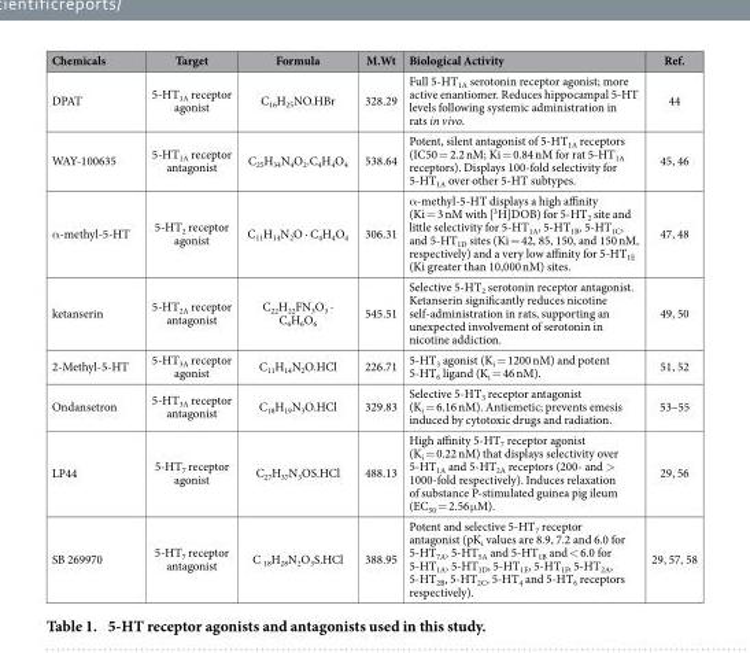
<table><thead><tr><td>Chemicals</td><td>Target</td><td>Formula</td><td>M.Wt</td><td>Biological Activity</td><td>Ref.</td></tr></thead><tbody><tr><td>DPAT</td><td>5-HT<sub>1A</sub> receptor agonist</td><td>C<sub>16</sub>H<sub>25</sub>NO.HBr</td><td>328.29</td><td>Full 5-HT<sub>1A</sub> serotonin receptor agonist; more active enantiomer. Reduces hippocampal 5-HT levels following systemic administration in rats in vivo.</td><td>44</td></tr><tr><td>WAY-100635</td><td>5-HT<sub>1A</sub> receptor antagonist</td><td>C<sub>25</sub>H<sub>34</sub>N<sub>4</sub>O<sub>2</sub>.C<sub>4</sub>H<sub>4</sub>O<sub>4</sub></td><td>538.64</td><td>Potent, silent antagonist of 5-HT<sub>1A</sub> receptors (IC50 = 2.2 nM; Ki = 0.84 nM for rat 5-HT<sub>1A</sub> receptors). Displays 100-fold selectivity for 5-HT<sub>1A</sub> over other 5-HT subtypes.</td><td>45, 46</td></tr><tr><td>α -methyl-5-HT</td><td>5-HT<sub>2</sub> receptor agonist</td><td>C<sub>11</sub>H<sub>14</sub>N<sub>2</sub>O · C<sub>4</sub>H<sub>4</sub>O<sub>4</sub></td><td>306.31</td><td>α-methyl-5-HT displays a high affinity (Ki = 3 nM with [3H]DOB) for 5-HT2 site and little selectivity for 5-HT1A, 5-HT1B, 5-HT1C, and 5-HT1D sites (Ki = 42, 85, 150, and 150 nM, respectively) and a very low affinity for 5-HT1E (Ki greater than 10,000 nM) sites.</td><td>47, 48</td></tr><tr><td>ketanserin</td><td>5-HT<sub>2A</sub> receptor antagonist</td><td>C<sub>22</sub>H<sub>22</sub>FN<sub>3</sub>O<sub>3</sub> · C<sub>4</sub>H<sub>6</sub>O<sub>6</sub></td><td>545.51</td><td>Selective 5-HT<sub>2</sub> serotonin receptor antagonist. Ketanserin significantly reduces nicotine self-administration in rats, supporting an unexpected involvement of serotonin in nicotine addiction.</td><td>49, 50</td></tr><tr><td>2-Methyl-5-HT</td><td>5-HT<sub>3A</sub> receptor agonist</td><td>C<sub>11</sub>H<sub>14</sub>N<sub>2</sub>O.HCl</td><td>226.71</td><td>5-HT<sub>3</sub> agonist (K<sub>i</sub> = 1200 nM) and potent 5-HT<sub>6</sub> ligand (K<sub>i</sub> = 46 nM).</td><td>51, 52</td></tr><tr><td>Ondansetron</td><td>5-HT<sub>3A</sub> receptor antagonist</td><td>C<sub>18</sub>H<sub>19</sub>N<sub>3</sub>O.HCl</td><td>329.83</td><td>Selective 5-HT<sub>3</sub> receptor antagonist (K<sub>i</sub> = 6.16 nM). Antiemetic; prevents emesis induced by cytotoxic drugs and radiation.</td><td>53–55</td></tr><tr><td>LP44</td><td>5-HT<sub>7</sub> receptor agonist</td><td>C<sub>27</sub>H<sub>37</sub>N<sub>3</sub>OS.HCl</td><td>488.13</td><td>High affinity 5-HT<sub>7</sub> receptor agonist (K<sub>i</sub> = 0.22 nM) that displays selectivity over 5-HT<sub>1A</sub> and 5-HT<sub>2A</sub> receptors (200- and &gt; 1000-fold respectively). Induces relaxation of substance P-stimulated guinea pig ileum (EC<sub>50</sub> = 2.56 μ M).</td><td>29, 56</td></tr><tr><td>SB 269970</td><td>5-HT<sub>7</sub> receptor antagonist</td><td>C <sub>18</sub>H<sub>28</sub>N<sub>2</sub>O<sub>3</sub>S.HCl</td><td>388.95</td><td>Potent and selective 5-HT<sub>7</sub> receptor antagonist (pK<sub>i</sub> values are 8.9, 7.2 and 6.0 for 5-HT<sub>7A</sub>, 5-HT<sub>5A</sub> and 5-HT<sub>1B</sub> and &lt; 6.0 for 5-HT<sub>1A</sub>, 5-HT<sub>1D</sub>, 5-HT<sub>1E</sub>, 5-HT<sub>1F</sub>, 5-HT<sub>2A</sub>, 5-HT<sub>2B</sub>, 5-HT<sub>2C</sub>, 5-HT<sub>4</sub> and 5-HT<sub>6</sub> receptors respectively).</td><td>29, 57, 58</td></tr></tbody></table>